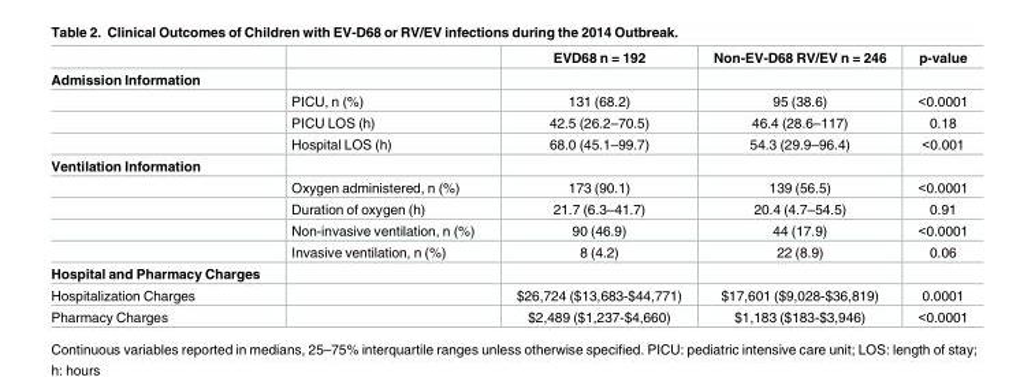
<table><thead><tr><td></td><td></td><td>EVD68 n = 192</td><td>Non-EV-D68 RV/EV n = 246</td><td>p-value</td></tr></thead><tbody><tr><td colspan="5">Admission Information</td></tr><tr><td></td><td>PICU, n (%)</td><td>131 (68.2)</td><td>95 (38.6)</td><td>&lt;0.0001</td></tr><tr><td></td><td>PICU LOS (h)</td><td>42.5 (26.2–70.5)</td><td>46.4 (28.6–117)</td><td>0.18</td></tr><tr><td></td><td>Hospital LOS (h)</td><td>68.0 (45.1–99.7)</td><td>54.3 (29.9–96.4)</td><td>&lt;0.001</td></tr><tr><td colspan="5">Ventilation Information</td></tr><tr><td></td><td>Oxygen administered, n (%)</td><td>173 (90.1)</td><td>139 (56.5)</td><td>&lt;0.0001</td></tr><tr><td></td><td>Duration of oxygen (h)</td><td>21.7 (6.3–41.7)</td><td>20.4 (4.7–54.5)</td><td>0.91</td></tr><tr><td></td><td>Non-invasive ventilation, n (%)</td><td>90 (46.9)</td><td>44 (17.9)</td><td>&lt;0.0001</td></tr><tr><td></td><td>Invasive ventilation, n (%)</td><td>8 (4.2)</td><td>22 (8.9)</td><td>0.06</td></tr><tr><td colspan="5">Hospital and Pharmacy Charges</td></tr><tr><td>Hospitalization Charges</td><td></td><td>$26,724 ($13,683-$44,771)</td><td>$17,601 ($9,028-$36,819)</td><td>0.0001</td></tr><tr><td>Pharmacy Charges</td><td></td><td>$2,489 ($1,237-$4,660)</td><td>$1,183 ($183-$3,946)</td><td>&lt;0.0001</td></tr></tbody></table>